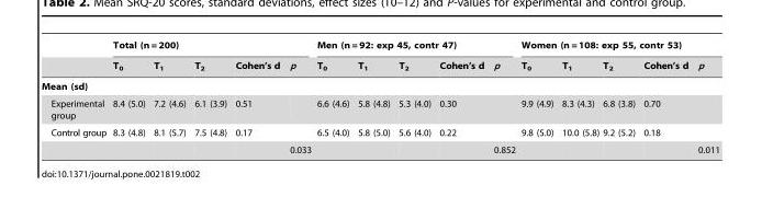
<table><thead><tr><td rowspan="2"></td><td colspan="5">Total (n = 200)</td><td colspan="5">Men (n = 92: exp 45, contr 47)</td><td colspan="5">Women (n = 108: exp 55, contr 53)</td></tr><tr><td>T<sub>0</sub></td><td>T<sub>1</sub></td><td>T<sub>2</sub></td><td>Cohen’s d</td><td>p</td><td>T<sub>0</sub></td><td>T<sub>1</sub></td><td>T<sub>2</sub></td><td>Cohen’s d</td><td>p</td><td>T<sub>0</sub></td><td>T<sub>1</sub></td><td>T<sub>2</sub></td><td>Cohen’s d</td><td>p</td></tr></thead><tbody><tr><td colspan="16">Mean (sd)</td></tr><tr><td>Experimental group</td><td>8.4 (5.0)</td><td>7.2 (4.6)</td><td>6.1 (3.9)</td><td>0.51</td><td></td><td>6.6 (4.6)</td><td>5.8 (4.8)</td><td>5.3 (4.0)</td><td>0.30</td><td></td><td>9.9 (4.9)</td><td>8.3 (4.3)</td><td>6.8 (3.8)</td><td>0.70</td><td></td></tr><tr><td rowspan="2">Control group</td><td>8.3 (4.8)</td><td>8.1 (5.7)</td><td>7.5 (4.8)</td><td>0.17</td><td></td><td>6.5 (4.0)</td><td>5.8 (5.0)</td><td>5.6 (4.0)</td><td>0.22</td><td></td><td>9.8 (5.0)</td><td>10.0 (5.8)</td><td>9.2 (5.2)</td><td>0.18</td><td></td></tr><tr><td></td><td></td><td></td><td></td><td>0.033</td><td></td><td></td><td></td><td></td><td>0.852</td><td></td><td></td><td></td><td></td><td>0.011</td></tr></tbody></table>